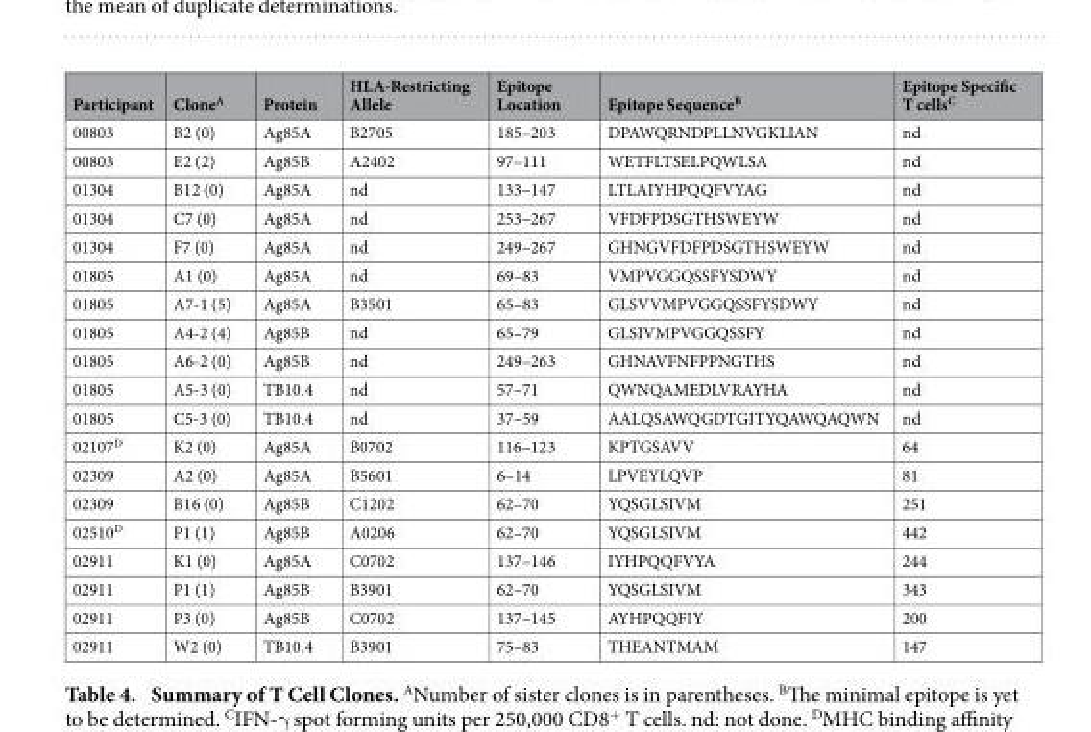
<table><thead><tr><td>Participant</td><td>Clone<sup>A</sup></td><td>Protein</td><td>HLA-Restricting Allele</td><td>Epitope Location</td><td>Epitope Sequence<sup>B</sup></td><td>Epitope Specific T cells<sup>C</sup></td></tr></thead><tbody><tr><td>00803</td><td>B2 (0)</td><td>Ag85A</td><td>B2705</td><td>185–203</td><td>DPAWQRNDPLLNVGKLIAN</td><td>nd</td></tr><tr><td>00803</td><td>E2 (2)</td><td>Ag85B</td><td>A2402</td><td>97–111</td><td>WETFLTSELPQWLSA</td><td>nd</td></tr><tr><td>01304</td><td>B12 (0)</td><td>Ag85A</td><td>nd</td><td>133–147</td><td>LTLAIYHPQQFVYAG</td><td>nd</td></tr><tr><td>01304</td><td>C7 (0)</td><td>Ag85A</td><td>nd</td><td>253–267</td><td>VFDFPDSGTHSWEYW</td><td>nd</td></tr><tr><td>01304</td><td>F7 (0)</td><td>Ag85A</td><td>nd</td><td>249–267</td><td>GHNGVFDFPDSGTHSWEYW</td><td>nd</td></tr><tr><td>01805</td><td>A1 (0)</td><td>Ag85A</td><td>nd</td><td>69–83</td><td>VMPVGGQSSFYSDWY</td><td>nd</td></tr><tr><td>01805</td><td>A7-1 (5)</td><td>Ag85A</td><td>B3501</td><td>65–83</td><td>GLSVVMPVGGQSSFYSDWY</td><td>nd</td></tr><tr><td>01805</td><td>A4-2 (4)</td><td>Ag85B</td><td>nd</td><td>65–79</td><td>GLSIVMPVGGQSSFY</td><td>nd</td></tr><tr><td>01805</td><td>A6-2 (0)</td><td>Ag85B</td><td>nd</td><td>249–263</td><td>GHNAVFNFPPNGTHS</td><td>nd</td></tr><tr><td>01805</td><td>A5-3 (0)</td><td>TB10.4</td><td>nd</td><td>57–71</td><td>QWNQAMEDLVRAYHA</td><td>nd</td></tr><tr><td>01805</td><td>C5-3 (0)</td><td>TB10.4</td><td>nd</td><td>37–59</td><td>AALQSAWQGDTGITYQAWQAQWN</td><td>nd</td></tr><tr><td>02107<sup>D</sup></td><td>K2 (0)</td><td>Ag85A</td><td>B0702</td><td>116–123</td><td>KPTGSAVV</td><td>64</td></tr><tr><td>02309</td><td>A2 (0)</td><td>Ag85A</td><td>B5601</td><td>6–14</td><td>LPVEYLQVP</td><td>81</td></tr><tr><td>02309</td><td>B16 (0)</td><td>Ag85B</td><td>C1202</td><td>62–70</td><td>YQSGLSIVM</td><td>251</td></tr><tr><td>02510<sup>D</sup></td><td>P1 (1)</td><td>Ag85B</td><td>A0206</td><td>62–70</td><td>YQSGLSIVM</td><td>442</td></tr><tr><td>02911</td><td>K1 (0)</td><td>Ag85A</td><td>C0702</td><td>137–146</td><td>IYHPQQFVYA</td><td>244</td></tr><tr><td>02911</td><td>P1 (1)</td><td>Ag85B</td><td>B3901</td><td>62–70</td><td>YQSGLSIVM</td><td>343</td></tr><tr><td>02911</td><td>P3 (0)</td><td>Ag85B</td><td>C0702</td><td>137–145</td><td>AYHPQQFIY</td><td>200</td></tr><tr><td>02911</td><td>W2 (0)</td><td>TB10.4</td><td>B3901</td><td>75–83</td><td>THEANTMAM</td><td>147</td></tr></tbody></table>